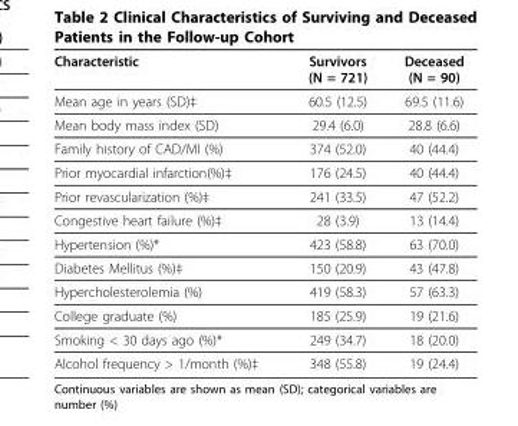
<table><thead><tr><td>Characteristic</td><td>Survivors (N = 721)</td><td>Deceased (N = 90)</td></tr></thead><tbody><tr><td>Mean age in years (SD)‡</td><td>60.5 (12.5)</td><td>69.5 (11.6)</td></tr><tr><td>Mean body mass index (SD)</td><td>29.4 (6.0)</td><td>28.8 (6.6)</td></tr><tr><td>Family history of CAD/MI (%)</td><td>374 (52.0)</td><td>40 (44.4)</td></tr><tr><td>Prior myocardial infarction(%)‡</td><td>176 (24.5)</td><td>40 (44.4)</td></tr><tr><td>Prior revascularization (%)‡</td><td>241 (33.5)</td><td>47 (52.2)</td></tr><tr><td>Congestive heart failure (%)‡</td><td>28 (3.9)</td><td>13 (14.4)</td></tr><tr><td>Hypertension (%)*</td><td>423 (58.8)</td><td>63 (70.0)</td></tr><tr><td>Diabetes Mellitus (%)‡</td><td>150 (20.9)</td><td>43 (47.8)</td></tr><tr><td>Hypercholesterolemia (%)</td><td>419 (58.3)</td><td>57 (63.3)</td></tr><tr><td>College graduate (%)</td><td>185 (25.9)</td><td>19 (21.6)</td></tr><tr><td>Smoking &lt; 30 days ago (%)*</td><td>249 (34.7)</td><td>18 (20.0)</td></tr><tr><td>Alcohol frequency &gt; 1/month (%)‡</td><td>348 (55.8)</td><td>19 (24.4)</td></tr></tbody></table>